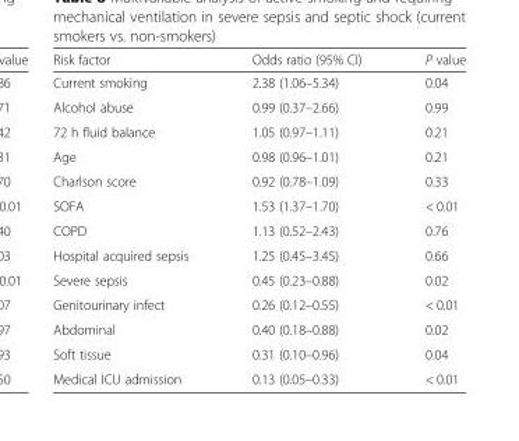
<table><thead><tr><td>Risk factor</td><td>Odds ratio (95% CI)</td><td>P value</td></tr></thead><tbody><tr><td>Current smoking</td><td>2.38 (1.06–5.34)</td><td>0.04</td></tr><tr><td>Alcohol abuse</td><td>0.99 (0.37–2.66)</td><td>0.99</td></tr><tr><td>72 h fluid balance</td><td>1.05 (0.97–1.11)</td><td>0.21</td></tr><tr><td>Age</td><td>0.98 (0.96–1.01)</td><td>0.21</td></tr><tr><td>Charlson score</td><td>0.92 (0.78–1.09)</td><td>0.33</td></tr><tr><td>SOFA</td><td>1.53 (1.37–1.70)</td><td>&lt; 0.01</td></tr><tr><td>COPD</td><td>1.13 (0.52–2.43)</td><td>0.76</td></tr><tr><td>Hospital acquired sepsis</td><td>1.25 (0.45–3.45)</td><td>0.66</td></tr><tr><td>Severe sepsis</td><td>0.45 (0.23–0.88)</td><td>0.02</td></tr><tr><td>Genitourinary infect</td><td>0.26 (0.12–0.55)</td><td>&lt; 0.01</td></tr><tr><td>Abdominal</td><td>0.40 (0.18–0.88)</td><td>0.02</td></tr><tr><td>Soft tissue</td><td>0.31 (0.10–0.96)</td><td>0.04</td></tr><tr><td>Medical ICU admission</td><td>0.13 (0.05–0.33)</td><td>&lt; 0.01</td></tr></tbody></table>